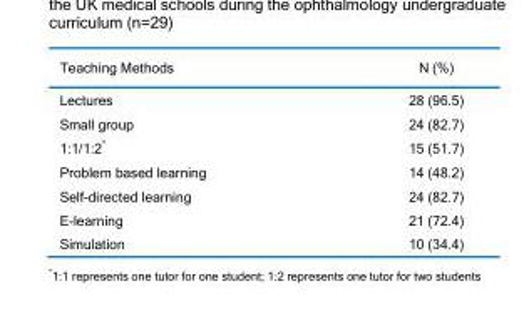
<table><thead><tr><td>Teaching Methods</td><td>N (%)</td></tr></thead><tbody><tr><td>Lectures</td><td>28 (96.5)</td></tr><tr><td>Small group</td><td>24 (82.7)</td></tr><tr><td>1:1/1:2*</td><td>15 (51.7)</td></tr><tr><td>Problem based learning</td><td>14 (48.2)</td></tr><tr><td>Self-directed learning</td><td>24 (82.7)</td></tr><tr><td>E-learning</td><td>21 (72.4)</td></tr><tr><td>Simulation</td><td>10 (34.4)</td></tr></tbody></table>